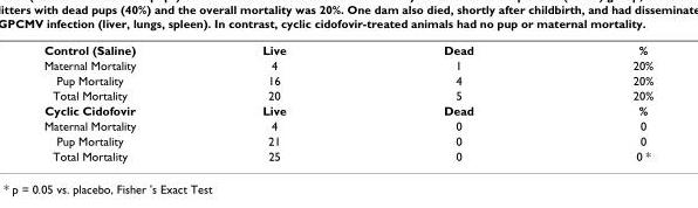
<table><tbody><tr><td>Control (Saline)</td><td>Live</td><td>Dead</td><td>%</td></tr><tr><td>Maternal Mortality</td><td>4</td><td>1</td><td>20%</td></tr><tr><td>Pup Mortality</td><td>16</td><td>4</td><td>20%</td></tr><tr><td>Total Mortality</td><td>20</td><td>5</td><td>20%</td></tr><tr><td>Cyclic Cidofovir</td><td>Live</td><td>Dead</td><td>%</td></tr><tr><td>Maternal Mortality</td><td>4</td><td>0</td><td>0</td></tr><tr><td>Pup Mortality</td><td>21</td><td>0</td><td>0</td></tr><tr><td>Total Mortality</td><td>25</td><td>0</td><td>0 *</td></tr></tbody></table>